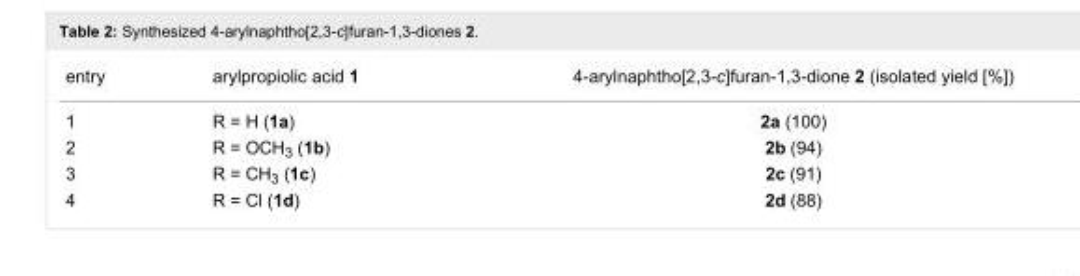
<table><tbody><tr><td>entry</td><td>arylpropiolic acid 1</td><td>4-arylnaphtho[2,3-c]furan-1,3-dione 2 (isolated yield [%])</td></tr><tr><td>1</td><td>R = H (1a)</td><td>2a (100)</td></tr><tr><td>2</td><td>R = OCH<sub>3</sub> (1b)</td><td>2b (94)</td></tr><tr><td>3</td><td>R = CH<sub>3</sub> (1c)</td><td>2c (91)</td></tr><tr><td>4</td><td>R = Cl (1d)</td><td>2d (88)</td></tr></tbody></table>